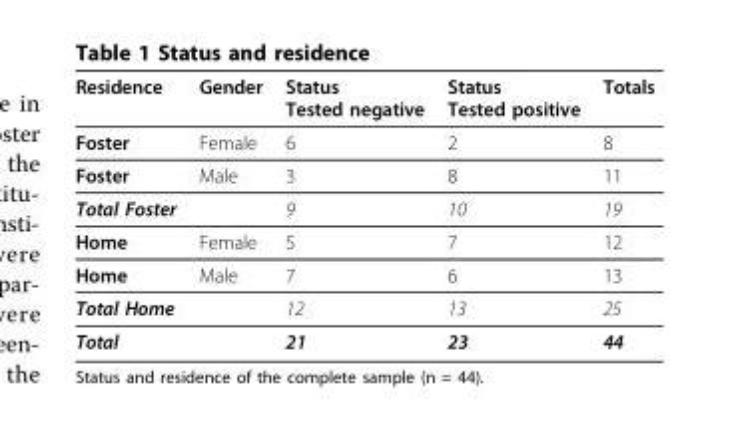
<table><thead><tr><td>Residence</td><td>Gender</td><td>Status Tested negative</td><td>Status Tested positive</td><td>Totals</td></tr></thead><tbody><tr><td>Foster</td><td>Female</td><td>6</td><td>2</td><td>8</td></tr><tr><td>Foster</td><td>Male</td><td>3</td><td>8</td><td>11</td></tr><tr><td>Total Foster</td><td></td><td>9</td><td>10</td><td>19</td></tr><tr><td>Home</td><td>Female</td><td>5</td><td>7</td><td>12</td></tr><tr><td>Home</td><td>Male</td><td>7</td><td>6</td><td>13</td></tr><tr><td>Total Home</td><td></td><td>12</td><td>13</td><td>25</td></tr><tr><td>Total</td><td></td><td>21</td><td>23</td><td>44</td></tr></tbody></table>